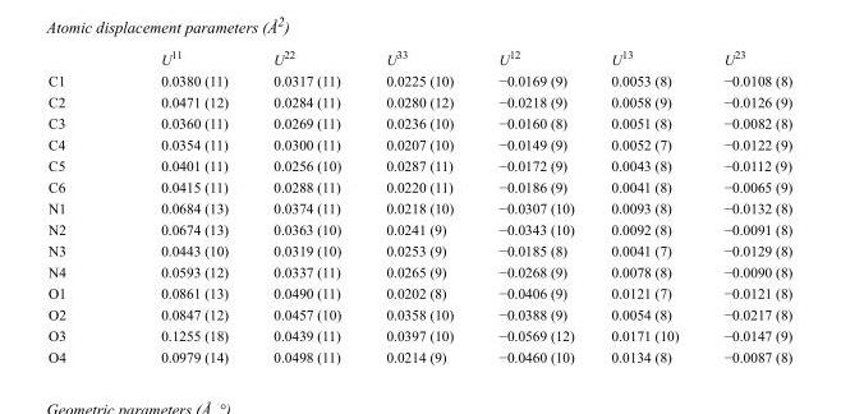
<table><thead><tr><td></td><td>U<sup>11</sup></td><td>U<sup>22</sup></td><td>U<sup>33</sup></td><td>U<sup>12</sup></td><td>U<sup>13</sup></td><td>U<sup>23</sup></td></tr></thead><tbody><tr><td>C1</td><td>0.0380 (11)</td><td>0.0317 (11)</td><td>0.0225 (10)</td><td>−0.0169 (9)</td><td>0.0053 (8)</td><td>−0.0108 (8)</td></tr><tr><td>C2</td><td>0.0471 (12)</td><td>0.0284 (11)</td><td>0.0280 (12)</td><td>−0.0218 (9)</td><td>0.0058 (9)</td><td>−0.0126 (9)</td></tr><tr><td>C3</td><td>0.0360 (11)</td><td>0.0269 (11)</td><td>0.0236 (10)</td><td>−0.0160 (8)</td><td>0.0051 (8)</td><td>−0.0082 (8)</td></tr><tr><td>C4</td><td>0.0354 (11)</td><td>0.0300 (11)</td><td>0.0207 (10)</td><td>−0.0149 (9)</td><td>0.0052 (7)</td><td>−0.0122 (9)</td></tr><tr><td>C5</td><td>0.0401 (11)</td><td>0.0256 (10)</td><td>0.0287 (11)</td><td>−0.0172 (9)</td><td>0.0043 (8)</td><td>−0.0112 (9)</td></tr><tr><td>C6</td><td>0.0415 (11)</td><td>0.0288 (11)</td><td>0.0220 (11)</td><td>−0.0186 (9)</td><td>0.0041 (8)</td><td>−0.0065 (9)</td></tr><tr><td>N1</td><td>0.0684 (13)</td><td>0.0374 (11)</td><td>0.0218 (10)</td><td>−0.0307 (10)</td><td>0.0093 (8)</td><td>−0.0132 (8)</td></tr><tr><td>N2</td><td>0.0674 (13)</td><td>0.0363 (10)</td><td>0.0241 (9)</td><td>−0.0343 (10)</td><td>0.0092 (8)</td><td>−0.0091 (8)</td></tr><tr><td>N3</td><td>0.0443 (10)</td><td>0.0319 (10)</td><td>0.0253 (9)</td><td>−0.0185 (8)</td><td>0.0041 (7)</td><td>−0.0129 (8)</td></tr><tr><td>N4</td><td>0.0593 (12)</td><td>0.0337 (11)</td><td>0.0265 (9)</td><td>−0.0268 (9)</td><td>0.0078 (8)</td><td>−0.0090 (8)</td></tr><tr><td>O1</td><td>0.0861 (13)</td><td>0.0490 (11)</td><td>0.0202 (8)</td><td>−0.0406 (9)</td><td>0.0121 (7)</td><td>−0.0121 (8)</td></tr><tr><td>O2</td><td>0.0847 (12)</td><td>0.0457 (10)</td><td>0.0358 (10)</td><td>−0.0388 (9)</td><td>0.0054 (8)</td><td>−0.0217 (8)</td></tr><tr><td>O3</td><td>0.1255 (18)</td><td>0.0439 (11)</td><td>0.0397 (10)</td><td>−0.0569 (12)</td><td>0.0171 (10)</td><td>−0.0147 (9)</td></tr><tr><td>O4</td><td>0.0979 (14)</td><td>0.0498 (11)</td><td>0.0214 (9)</td><td>−0.0460 (10)</td><td>0.0134 (8)</td><td>−0.0087 (8)</td></tr></tbody></table>